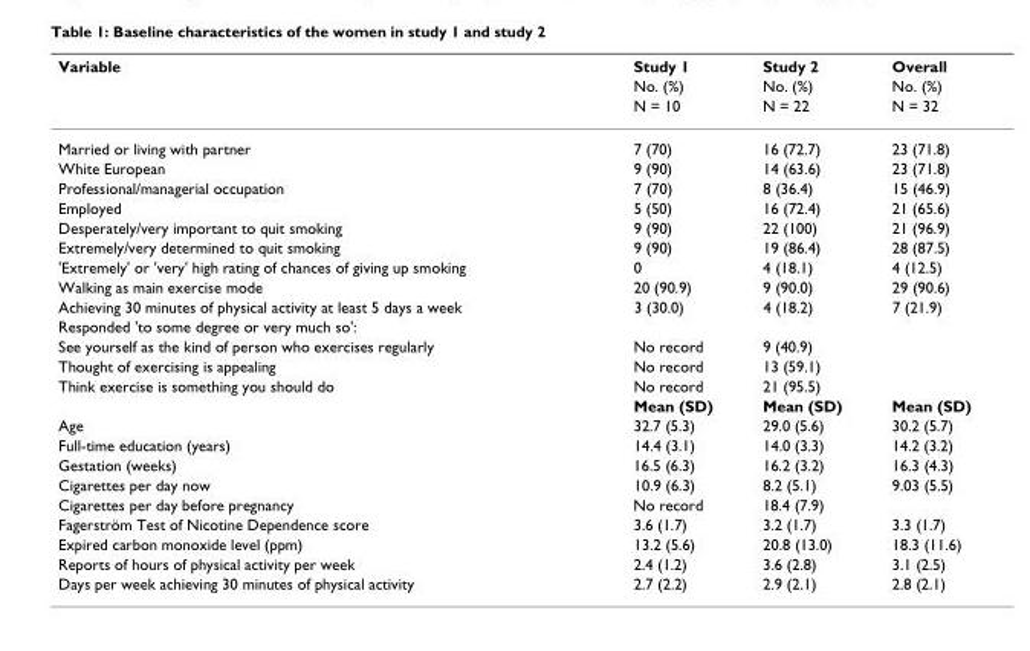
<table><thead><tr><td rowspan="3">Variable</td><td rowspan="3">Study 1 No. (%) N = 10</td><td rowspan="3">Study 2 No. (%) N = 22</td><td rowspan="3">Overall No. (%) N = 32</td></tr><tr></tr><tr></tr></thead><tbody><tr><td>Married or living with partner</td><td>7 (70)</td><td>16 (72.7)</td><td>23 (71.8)</td></tr><tr><td>White European</td><td>9 (90)</td><td>14 (63.6)</td><td>23 (71.8)</td></tr><tr><td>Professional/managerial occupation</td><td>7 (70)</td><td>8 (36.4)</td><td>15 (46.9)</td></tr><tr><td>Employed</td><td>5 (50)</td><td>16 (72.4)</td><td>21 (65.6)</td></tr><tr><td>Desperately/very important to quit smoking</td><td>9 (90)</td><td>22 (100)</td><td>21 (96.9)</td></tr><tr><td>Extremely/very determined to quit smoking</td><td>9 (90)</td><td>19 (86.4)</td><td>28 (87.5)</td></tr><tr><td>&#x27;Extremely&#x27; or &#x27;very&#x27; high rating of chances of giving up smoking</td><td>0</td><td>4 (18.1)</td><td>4 (12.5)</td></tr><tr><td>Walking as main exercise mode</td><td>20 (90.9)</td><td>9 (90.0)</td><td>29 (90.6)</td></tr><tr><td>Achieving 30 minutes of physical activity at least 5 days a week</td><td>3 (30.0)</td><td>4 (18.2)</td><td>7 (21.9)</td></tr><tr><td colspan="4">Responded &#x27;to some degree or very much so&#x27;:</td></tr><tr><td>See yourself as the kind of person who exercises regularly</td><td>No record</td><td>9 (40.9)</td><td></td></tr><tr><td>Thought of exercising is appealing</td><td>No record</td><td>13 (59.1)</td><td></td></tr><tr><td rowspan="2">Think exercise is something you should do</td><td>No record</td><td>21 (95.5)</td><td></td></tr><tr><td>Mean (SD)</td><td>Mean (SD)</td><td>Mean (SD)</td></tr><tr><td>Age</td><td>32.7 (5.3)</td><td>29.0 (5.6)</td><td>30.2 (5.7)</td></tr><tr><td>Full-time education (years)</td><td>14.4 (3.1)</td><td>14.0 (3.3)</td><td>14.2 (3.2)</td></tr><tr><td>Gestation (weeks)</td><td>16.5 (6.3)</td><td>16.2 (3.2)</td><td>16.3 (4.3)</td></tr><tr><td>Cigarettes per day now</td><td>10.9 (6.3)</td><td>8.2 (5.1)</td><td>9.03 (5.5)</td></tr><tr><td>Cigarettes per day before pregnancy</td><td>No record</td><td>18.4 (7.9)</td><td></td></tr><tr><td>Fagerström Test of Nicotine Dependence score</td><td>3.6 (1.7)</td><td>3.2 (1.7)</td><td>3.3 (1.7)</td></tr><tr><td>Expired carbon monoxide level (ppm)</td><td>13.2 (5.6)</td><td>20.8 (13.0)</td><td>18.3 (11.6)</td></tr><tr><td>Reports of hours of physical activity per week</td><td>2.4 (1.2)</td><td>3.6 (2.8)</td><td>3.1 (2.5)</td></tr><tr><td>Days per week achieving 30 minutes of physical activity</td><td>2.7 (2.2)</td><td>2.9 (2.1)</td><td>2.8 (2.1)</td></tr></tbody></table>